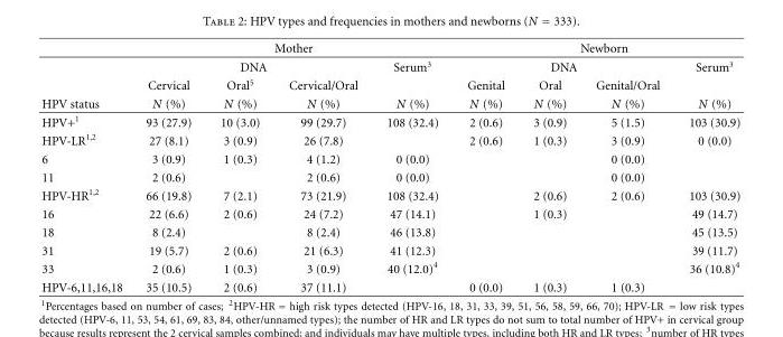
<table><thead><tr><td rowspan="3"></td><td colspan="4">Mother</td><td colspan="4">Newborn</td></tr><tr><td colspan="3">DNA</td><td rowspan="2">Serum<sup>3</sup></td><td colspan="3">DNA</td><td rowspan="2">Serum<sup>3</sup></td></tr><tr><td>Cervical</td><td>Oral<sup>5</sup></td><td>Cervical/Oral</td><td>Genital</td><td>Oral</td><td>Genital/Oral</td></tr></thead><tbody><tr><td>HPV status</td><td>N (%)</td><td>N (%)</td><td>N (%)</td><td>N (%)</td><td>N (%)</td><td>N (%)</td><td>N (%)</td><td>N (%)</td></tr><tr><td>HPV+<sup>1</sup></td><td>93 (27.9)</td><td>10 (3.0)</td><td>99 (29.7)</td><td>108 (32.4)</td><td>2 (0.6)</td><td>3 (0.9)</td><td>5 (1.5)</td><td>103 (30.9)</td></tr><tr><td>HPV-LR<sup>1,2</sup></td><td>27 (8.1)</td><td>3 (0.9)</td><td>26 (7.8)</td><td></td><td>2 (0.6)</td><td>1 (0.3)</td><td>3 (0.9)</td><td>0 (0.0)</td></tr><tr><td>6</td><td>3 (0.9)</td><td>1 (0.3)</td><td>4 (1.2)</td><td>0 (0.0)</td><td></td><td></td><td>0 (0.0)</td><td></td></tr><tr><td>11</td><td>2 (0.6)</td><td></td><td>2 (0.6)</td><td>0 (0.0)</td><td></td><td></td><td>0 (0.0)</td><td></td></tr><tr><td>HPV-HR<sup>1,2</sup></td><td>66 (19.8)</td><td>7 (2.1)</td><td>73 (21.9)</td><td>108 (32.4)</td><td></td><td>2 (0.6)</td><td>2 (0.6)</td><td>103 (30.9)</td></tr><tr><td>16</td><td>22 (6.6)</td><td>2 (0.6)</td><td>24 (7.2)</td><td>47 (14.1)</td><td></td><td>1 (0.3)</td><td></td><td>49 (14.7)</td></tr><tr><td>18</td><td>8 (2.4)</td><td></td><td>8 (2.4)</td><td>46 (13.8)</td><td></td><td></td><td></td><td>45 (13.5)</td></tr><tr><td>31</td><td>19 (5.7)</td><td>2 (0.6)</td><td>21 (6.3)</td><td>41 (12.3)</td><td></td><td></td><td></td><td>39 (11.7)</td></tr><tr><td>33</td><td>2 (0.6)</td><td>1 (0.3)</td><td>3 (0.9)</td><td>40 (12.0)<sup>4</sup></td><td></td><td></td><td></td><td>36 (10.8)<sup>4</sup></td></tr><tr><td>HPV-6,11,16,18</td><td>35 (10.5)</td><td>2 (0.6)</td><td>37 (11.1)</td><td></td><td>0 (0.0)</td><td>1 (0.3)</td><td>1 (0.3)</td><td></td></tr></tbody></table>